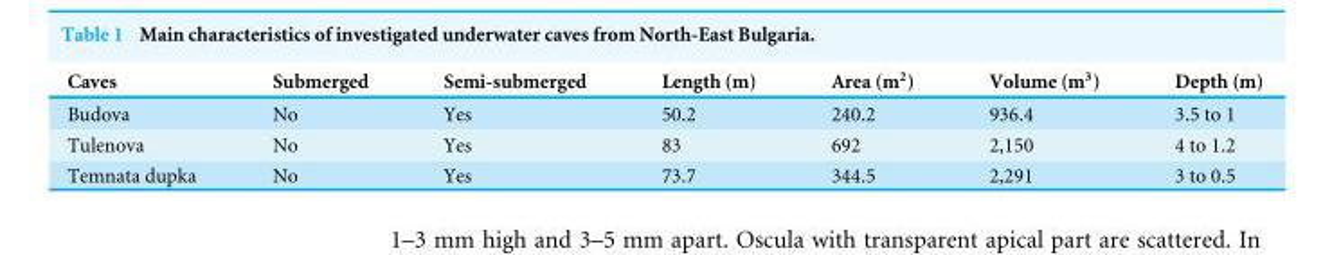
<table><thead><tr><td>Caves</td><td>Submerged</td><td>Semi-submerged</td><td>Length (m)</td><td>Area (m<sup>2</sup>)</td><td>Volume (m<sup>3</sup>)</td><td>Depth (m)</td></tr></thead><tbody><tr><td>Budova</td><td>No</td><td>Yes</td><td>50.2</td><td>240.2</td><td>936.4</td><td>3.5 to 1</td></tr><tr><td>Tulenova</td><td>No</td><td>Yes</td><td>83</td><td>692</td><td>2,150</td><td>4 to 1.2</td></tr><tr><td>Temnata dupka</td><td>No</td><td>Yes</td><td>73.7</td><td>344.5</td><td>2,291</td><td>3 to 0.5</td></tr></tbody></table>